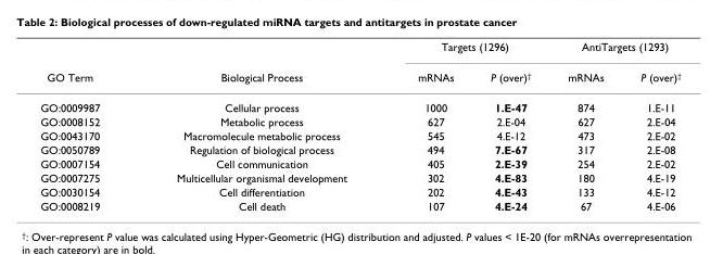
<table><thead><tr><td rowspan="2">GO Term</td><td rowspan="2">Biological Process</td><td colspan="2">Targets (1296)</td><td colspan="2">AntiTargets (1293)</td></tr><tr><td>mRNAs</td><td>P (over)<sup>†</sup></td><td>mRNAs</td><td>P (over)<sup>†</sup></td></tr></thead><tbody><tr><td>GO:0009987</td><td>Cellular process</td><td>1000</td><td>1.E-47</td><td>874</td><td>1.E-11</td></tr><tr><td>GO:0008152</td><td>Metabolic process</td><td>627</td><td>2.E-04</td><td>627</td><td>2.E-04</td></tr><tr><td>GO:0043170</td><td>Macromolecule metabolic process</td><td>545</td><td>4.E-12</td><td>473</td><td>2.E-02</td></tr><tr><td>GO:0050789</td><td>Regulation of biological process</td><td>494</td><td>7.E-67</td><td>317</td><td>2.E-08</td></tr><tr><td>GO:0007154</td><td>Cell communication</td><td>405</td><td>2.E-39</td><td>254</td><td>2.E-02</td></tr><tr><td>GO:0007275</td><td>Multicellular organismal development</td><td>302</td><td>4.E-83</td><td>180</td><td>4.E-19</td></tr><tr><td>GO:0030154</td><td>Cell differentiation</td><td>202</td><td>4.E-43</td><td>133</td><td>4.E-12</td></tr><tr><td>GO:0008219</td><td>Cell death</td><td>107</td><td>4.E-24</td><td>67</td><td>4.E-06</td></tr></tbody></table>